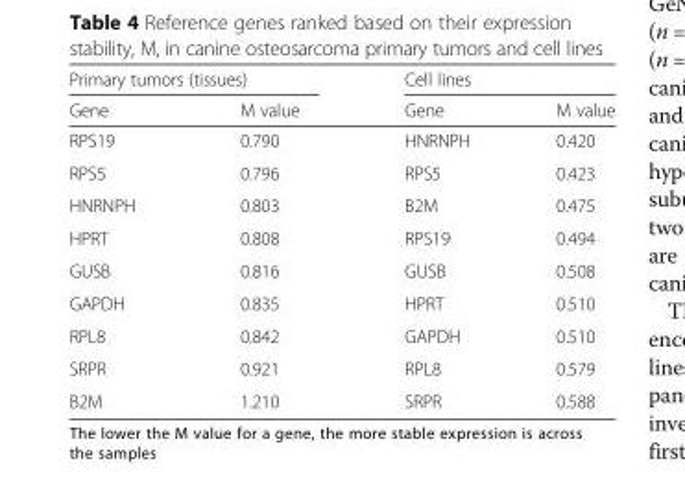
<table><thead><tr><td colspan="2">Primary tumors (tissues)</td><td colspan="2">Cell lines</td></tr><tr><td>Gene</td><td>M value</td><td>Gene</td><td>M value</td></tr></thead><tbody><tr><td>RPS19</td><td>0.790</td><td>HNRNPH</td><td>0.420</td></tr><tr><td>RPS5</td><td>0.796</td><td>RPS5</td><td>0.423</td></tr><tr><td>HNRNPH</td><td>0.803</td><td>B2M</td><td>0.475</td></tr><tr><td>HPRT</td><td>0.808</td><td>RPS19</td><td>0.494</td></tr><tr><td>GUSB</td><td>0.816</td><td>GUSB</td><td>0.508</td></tr><tr><td>GAPDH</td><td>0.835</td><td>HPRT</td><td>0.510</td></tr><tr><td>RPL8</td><td>0.842</td><td>GAPDH</td><td>0.510</td></tr><tr><td>SRPR</td><td>0.921</td><td>RPL8</td><td>0.579</td></tr><tr><td>B2M</td><td>1.210</td><td>SRPR</td><td>0.588</td></tr></tbody></table>